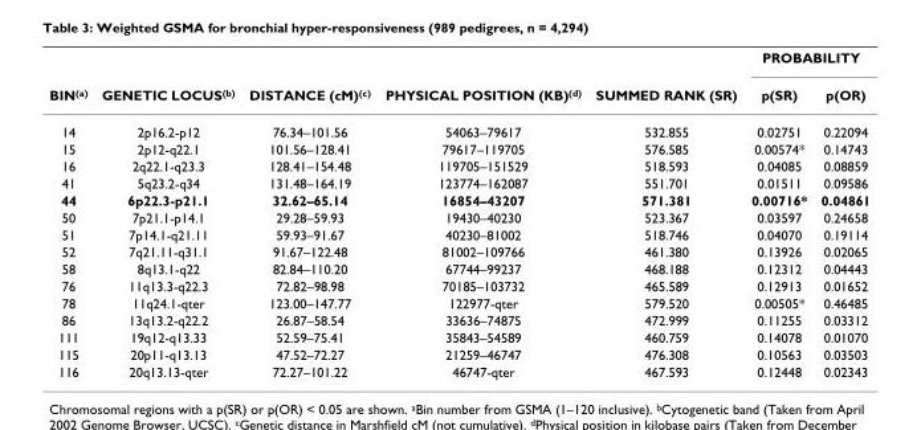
<table><thead><tr><td rowspan="2">BIN<sup>(a)</sup></td><td rowspan="2">GENETIC LOCUS<sup>(b)</sup></td><td rowspan="2">DISTANCE (cM)<sup>(c)</sup></td><td rowspan="2">PHYSICAL POSITION (KB)<sup>(d)</sup></td><td rowspan="2">SUMMED RANK (SR)</td><td colspan="2">PROBABILITY</td></tr><tr><td>p(SR)</td><td>p(OR)</td></tr></thead><tbody><tr><td>14</td><td>2p16.2-p12</td><td>76.34–101.56</td><td>54063–79617</td><td>532.855</td><td>0.02751</td><td>0.22094</td></tr><tr><td>15</td><td>2p12-q22.1</td><td>101.56–128.41</td><td>79617–119705</td><td>576.585</td><td>0.00574*</td><td>0.14743</td></tr><tr><td>16</td><td>2q22.1-q23.3</td><td>128.41–154.48</td><td>119705–151529</td><td>518.593</td><td>0.04085</td><td>0.08859</td></tr><tr><td>41</td><td>5q23.2-q34</td><td>131.48–164.19</td><td>123774–162087</td><td>551.701</td><td>0.01511</td><td>0.09586</td></tr><tr><td>44</td><td>6p22.3-p21.1</td><td>32.62–65.14</td><td>16854–43207</td><td>571.381</td><td>0.00716*</td><td>0.04861</td></tr><tr><td>50</td><td>7p21.1-p14.1</td><td>29.28–59.93</td><td>19430–40230</td><td>523.367</td><td>0.03597</td><td>0.24658</td></tr><tr><td>51</td><td>7p14.1-q21.11</td><td>59.93–91.67</td><td>40230–81002</td><td>518.746</td><td>0.04070</td><td>0.19114</td></tr><tr><td>52</td><td>7q21.11-q31.1</td><td>91.67–122.48</td><td>81002–109766</td><td>461.380</td><td>0.13926</td><td>0.02065</td></tr><tr><td>58</td><td>8q13.1-q22</td><td>82.84–110.20</td><td>67744–99237</td><td>468.188</td><td>0.12312</td><td>0.04443</td></tr><tr><td>76</td><td>11q13.3-q22.3</td><td>72.82–98.98</td><td>70185–103732</td><td>465.589</td><td>0.12913</td><td>0.01652</td></tr><tr><td>78</td><td>11q24.1-qter</td><td>123.00–147.77</td><td>122977-qter</td><td>579.520</td><td>0.00505*</td><td>0.46485</td></tr><tr><td>86</td><td>13q13.2-q22.2</td><td>26.87–58.54</td><td>33636–74875</td><td>472.999</td><td>0.11255</td><td>0.03312</td></tr><tr><td>111</td><td>19q12-q13.33</td><td>52.59–75.41</td><td>35843–54589</td><td>460.759</td><td>0.14078</td><td>0.01070</td></tr><tr><td>115</td><td>20p11-q13.13</td><td>47.52–72.27</td><td>21259–46747</td><td>476.308</td><td>0.10563</td><td>0.03503</td></tr><tr><td>116</td><td>20q13.13-qter</td><td>72.27–101.22</td><td>46747-qter</td><td>467.593</td><td>0.12448</td><td>0.02343</td></tr></tbody></table>